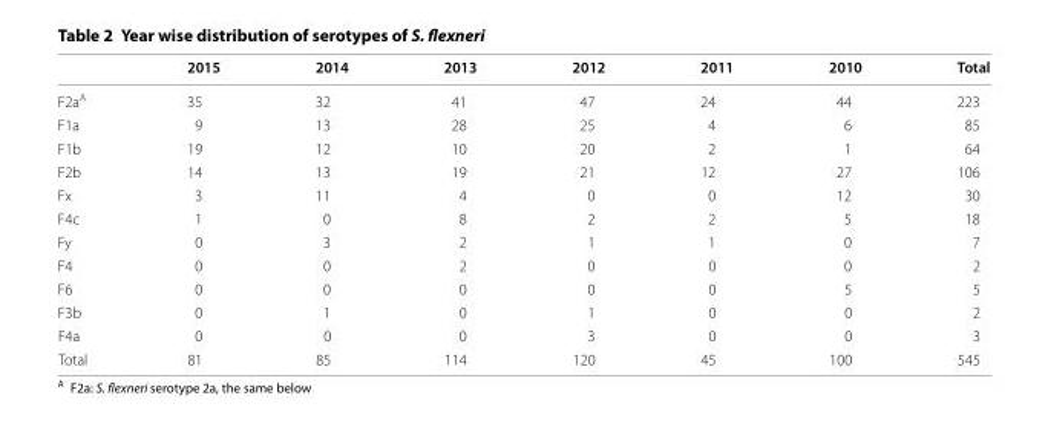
<table><thead><tr><td></td><td>2015</td><td>2014</td><td>2013</td><td>2012</td><td>2011</td><td>2010</td><td>Total</td></tr></thead><tbody><tr><td>F2a<sup>A</sup></td><td>35</td><td>32</td><td>41</td><td>47</td><td>24</td><td>44</td><td>223</td></tr><tr><td>F1a</td><td>9</td><td>13</td><td>28</td><td>25</td><td>4</td><td>6</td><td>85</td></tr><tr><td>F1b</td><td>19</td><td>12</td><td>10</td><td>20</td><td>2</td><td>1</td><td>64</td></tr><tr><td>F2b</td><td>14</td><td>13</td><td>19</td><td>21</td><td>12</td><td>27</td><td>106</td></tr><tr><td>Fx</td><td>3</td><td>11</td><td>4</td><td>0</td><td>0</td><td>12</td><td>30</td></tr><tr><td>F4c</td><td>1</td><td>0</td><td>8</td><td>2</td><td>2</td><td>5</td><td>18</td></tr><tr><td>Fy</td><td>0</td><td>3</td><td>2</td><td>1</td><td>1</td><td>0</td><td>7</td></tr><tr><td>F4</td><td>0</td><td>0</td><td>2</td><td>0</td><td>0</td><td>0</td><td>2</td></tr><tr><td>F6</td><td>0</td><td>0</td><td>0</td><td>0</td><td>0</td><td>5</td><td>5</td></tr><tr><td>F3b</td><td>0</td><td>1</td><td>0</td><td>1</td><td>0</td><td>0</td><td>2</td></tr><tr><td>F4a</td><td>0</td><td>0</td><td>0</td><td>3</td><td>0</td><td>0</td><td>3</td></tr><tr><td>Total</td><td>81</td><td>85</td><td>114</td><td>120</td><td>45</td><td>100</td><td>545</td></tr></tbody></table>